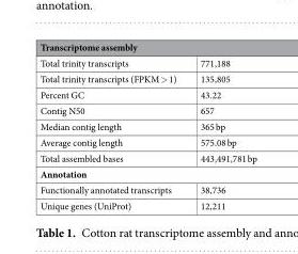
<table><thead><tr><td colspan="2">Transcriptome assembly</td></tr><tr><td>Total trinity transcripts</td><td>771,188</td></tr></thead><tbody><tr><td>Total trinity transcripts (FPKM &gt; 1)</td><td>135,805</td></tr><tr><td>Percent GC</td><td>43.22</td></tr><tr><td>Contig N50</td><td>657</td></tr><tr><td>Median contig length</td><td>365 bp</td></tr><tr><td>Average contig length</td><td>575.08 bp</td></tr><tr><td>Total assembled bases</td><td>443,491,781 bp</td></tr><tr><td colspan="2">Annotation</td></tr><tr><td>Functionally annotated transcripts</td><td>38,736</td></tr><tr><td>Unique genes (UniProt)</td><td>12,211</td></tr></tbody></table>